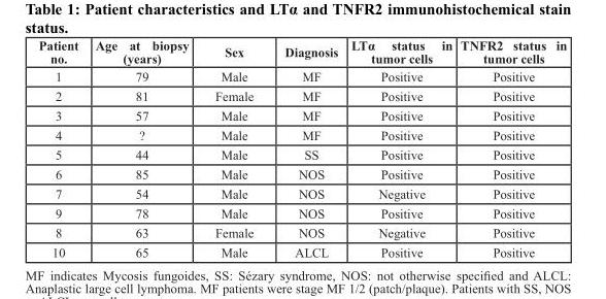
<table><thead><tr><td>Patient no.</td><td>Age at biopsy (years)</td><td>Sex</td><td>Diagnosis</td><td>LTα status in tumor cells</td><td>TNFR2 status in tumor cells</td></tr></thead><tbody><tr><td>1</td><td>79</td><td>Male</td><td>MF</td><td>Positive</td><td>Positive</td></tr><tr><td>2</td><td>81</td><td>Female</td><td>MF</td><td>Positive</td><td>Positive</td></tr><tr><td>3</td><td>57</td><td>Male</td><td>MF</td><td>Positive</td><td>Positive</td></tr><tr><td>4</td><td>?</td><td>Male</td><td>MF</td><td>Positive</td><td>Positive</td></tr><tr><td>5</td><td>44</td><td>Male</td><td>SS</td><td>Positive</td><td>Positive</td></tr><tr><td>6</td><td>85</td><td>Male</td><td>NOS</td><td>Positive</td><td>Positive</td></tr><tr><td>7</td><td>54</td><td>Male</td><td>NOS</td><td>Negative</td><td>Positive</td></tr><tr><td>9</td><td>78</td><td>Male</td><td>NOS</td><td>Positive</td><td>Positive</td></tr><tr><td>8</td><td>63</td><td>Female</td><td>NOS</td><td>Negative</td><td>Positive</td></tr><tr><td>10</td><td>65</td><td>Male</td><td>ALCL</td><td>Positive</td><td>Positive</td></tr></tbody></table>